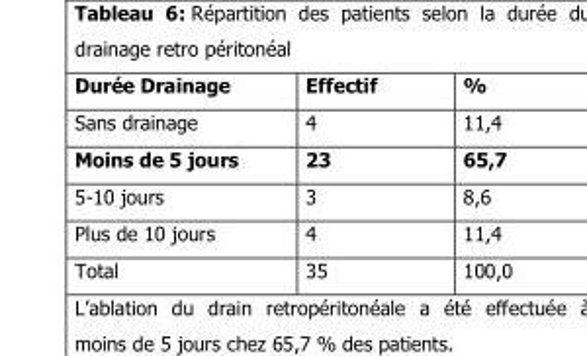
<table><thead><tr><td>Durée Drainage</td><td>Effectif</td><td>%</td></tr></thead><tbody><tr><td>Sans drainage</td><td>4</td><td>11,4</td></tr><tr><td>Moins de 5 jours</td><td>23</td><td>65,7</td></tr><tr><td>5-10 jours</td><td>3</td><td>8,6</td></tr><tr><td>Plus de 10 jours</td><td>4</td><td>11,4</td></tr><tr><td>Total</td><td>35</td><td>100,0</td></tr></tbody></table>